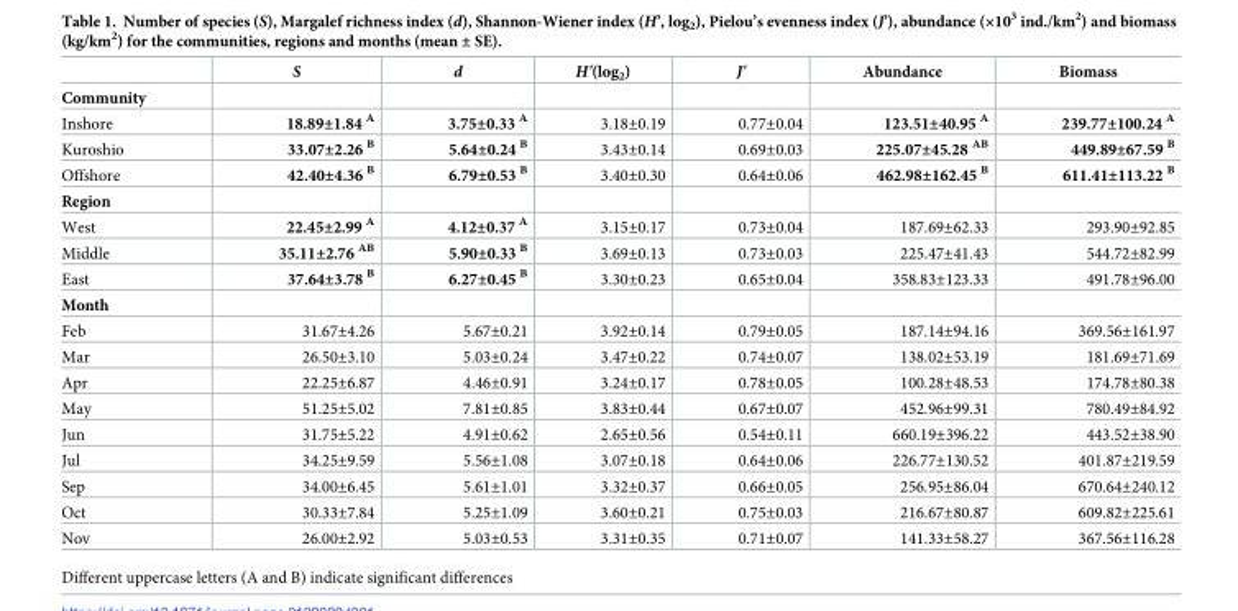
<table><thead><tr><td></td><td>S</td><td>d</td><td>H&#x27;(log<sub>2</sub>)</td><td>J&#x27;</td><td>Abundance</td><td>Biomass</td></tr></thead><tbody><tr><td colspan="7">Community</td></tr><tr><td>Inshore</td><td>18.89±1.84 <sup>A</sup></td><td>3.75±0.33 <sup>A</sup></td><td>3.18±0.19</td><td>0.77±0.04</td><td>123.51±40.95 <sup>A</sup></td><td>239.77±100.24 <sup>A</sup></td></tr><tr><td>Kuroshio</td><td>33.07±2.26 <sup>B</sup></td><td>5.64±0.24 <sup>B</sup></td><td>3.43±0.14</td><td>0.69±0.03</td><td>225.07±45.28 <sup>AB</sup></td><td>449.89±67.59 <sup>B</sup></td></tr><tr><td>Offshore</td><td>42.40±4.36 <sup>B</sup></td><td>6.79±0.53 <sup>B</sup></td><td>3.40±0.30</td><td>0.64±0.06</td><td>462.98±162.45 <sup>B</sup></td><td>611.41±113.22 <sup>B</sup></td></tr><tr><td colspan="7">Region</td></tr><tr><td>West</td><td>22.45±2.99 <sup>A</sup></td><td>4.12±0.37 <sup>A</sup></td><td>3.15±0.17</td><td>0.73±0.04</td><td>187.69±62.33</td><td>293.90±92.85</td></tr><tr><td>Middle</td><td>35.11±2.76 <sup>AB</sup></td><td>5.90±0.33 <sup>B</sup></td><td>3.69±0.13</td><td>0.73±0.03</td><td>225.47±41.43</td><td>544.72±82.99</td></tr><tr><td>East</td><td>37.64±3.78 <sup>B</sup></td><td>6.27±0.45 <sup>B</sup></td><td>3.30±0.23</td><td>0.65±0.04</td><td>358.83±123.33</td><td>491.78±96.00</td></tr><tr><td colspan="7">Month</td></tr><tr><td>Feb</td><td>31.67±4.26</td><td>5.67±0.21</td><td>3.92±0.14</td><td>0.79±0.05</td><td>187.14±94.16</td><td>369.56±161.97</td></tr><tr><td>Mar</td><td>26.50±3.10</td><td>5.03±0.24</td><td>3.47±0.22</td><td>0.74±0.07</td><td>138.02±53.19</td><td>181.69±71.69</td></tr><tr><td>Apr</td><td>22.25±6.87</td><td>4.46±0.91</td><td>3.24±0.17</td><td>0.78±0.05</td><td>100.28±48.53</td><td>174.78±80.38</td></tr><tr><td>May</td><td>51.25±5.02</td><td>7.81±0.85</td><td>3.83±0.44</td><td>0.67±0.07</td><td>452.96±99.31</td><td>780.49±84.92</td></tr><tr><td>Jun</td><td>31.75±5.22</td><td>4.91±0.62</td><td>2.65±0.56</td><td>0.54±0.11</td><td>660.19±396.22</td><td>443.52±38.90</td></tr><tr><td>Jul</td><td>34.25±9.59</td><td>5.56±1.08</td><td>3.07±0.18</td><td>0.64±0.06</td><td>226.77±130.52</td><td>401.87±219.59</td></tr><tr><td>Sep</td><td>34.00±6.45</td><td>5.61±1.01</td><td>3.32±0.37</td><td>0.66±0.05</td><td>256.95±86.04</td><td>670.64±240.12</td></tr><tr><td>Oct</td><td>30.33±7.84</td><td>5.25±1.09</td><td>3.60±0.21</td><td>0.75±0.03</td><td>216.67±80.87</td><td>609.82±225.61</td></tr><tr><td>Nov</td><td>26.00±2.92</td><td>5.03±0.53</td><td>3.31±0.35</td><td>0.71±0.07</td><td>141.33±58.27</td><td>367.56±116.28</td></tr></tbody></table>